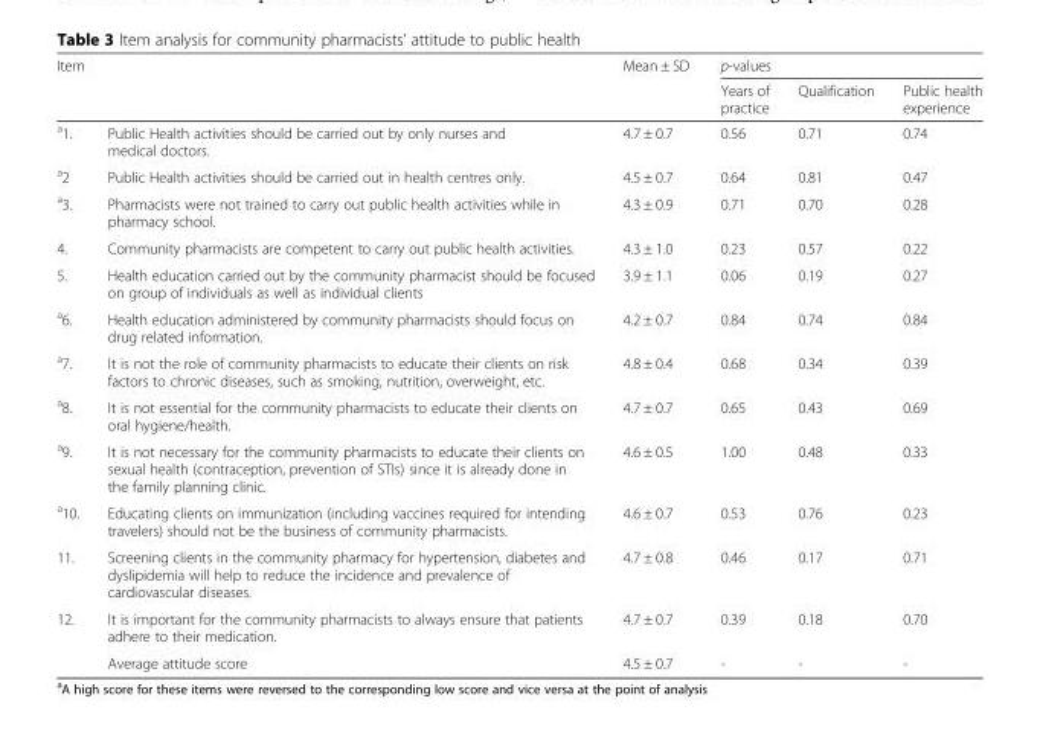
<table><thead><tr><td rowspan="2" colspan="2">Item</td><td rowspan="3">Mean ± SD 4.7 ± 0.7</td><td colspan="3">p-values</td></tr><tr><td rowspan="2">Years of practice 0.56</td><td rowspan="2">Qualification 0.71</td><td rowspan="2">Public health experience 0.74</td></tr><tr><td><sup>a</sup>1.</td><td>Public Health activities should be carried out by only nurses and medical doctors.</td></tr></thead><tbody><tr><td><sup>a</sup>2</td><td>Public Health activities should be carried out in health centres only.</td><td>4.5 ± 0.7</td><td>0.64</td><td>0.81</td><td>0.47</td></tr><tr><td><sup>a</sup>3.</td><td>Pharmacists were not trained to carry out public health activities while in pharmacy school.</td><td>4.3 ± 0.9</td><td>0.71</td><td>0.70</td><td>0.28</td></tr><tr><td>4.</td><td>Community pharmacists are competent to carry out public health activities.</td><td>4.3 ± 1.0</td><td>0.23</td><td>0.57</td><td>0.22</td></tr><tr><td>5.</td><td>Health education carried out by the community pharmacist should be focused on group of individuals as well as individual clients</td><td>3.9 ± 1.1</td><td>0.06</td><td>0.19</td><td>0.27</td></tr><tr><td><sup>a</sup>6.</td><td>Health education administered by community pharmacists should focus on drug related information.</td><td>4.2 ± 0.7</td><td>0.84</td><td>0.74</td><td>0.84</td></tr><tr><td><sup>a</sup>7.</td><td>It is not the role of community pharmacists to educate their clients on risk factors to chronic diseases, such as smoking, nutrition, overweight, etc.</td><td>4.8 ± 0.4</td><td>0.68</td><td>0.34</td><td>0.39</td></tr><tr><td><sup>a</sup>8.</td><td>It is not essential for the community pharmacists to educate their clients on oral hygiene/health.</td><td>4.7 ± 0.7</td><td>0.65</td><td>0.43</td><td>0.69</td></tr><tr><td><sup>a</sup>9.</td><td>It is not necessary for the community pharmacists to educate their clients on sexual health (contraception, prevention of STIs) since it is already done in the family planning clinic.</td><td>4.6 ± 0.5</td><td>1.00</td><td>0.48</td><td>0.33</td></tr><tr><td><sup>a</sup>10.</td><td>Educating clients on immunization (including vaccines required for intending travelers) should not be the business of community pharmacists.</td><td>4.6 ± 0.7</td><td>0.53</td><td>0.76</td><td>0.23</td></tr><tr><td>11.</td><td>Screening clients in the community pharmacy for hypertension, diabetes and dyslipidemia will help to reduce the incidence and prevalence of cardiovascular diseases.</td><td>4.7 ± 0.8</td><td>0.46</td><td>0.17</td><td>0.71</td></tr><tr><td rowspan="2">12.</td><td>It is important for the community pharmacists to always ensure that patients adhere to their medication.</td><td>4.7 ± 0.7</td><td>0.39</td><td>0.18</td><td>0.70</td></tr><tr><td>Average attitude score</td><td>4.5 ± 0.7</td><td>-</td><td>-</td><td>-</td></tr></tbody></table>